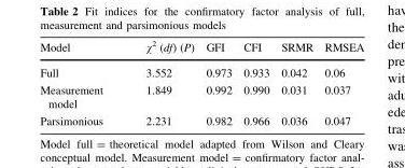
<table><thead><tr><td>Model</td><td>χ<sup>2</sup> (df) (P)</td><td>GFI</td><td>CFI</td><td>SRMR</td><td>RMSEA</td></tr></thead><tbody><tr><td>Full</td><td>3.552</td><td>0.973</td><td>0.933</td><td>0.042</td><td>0.06</td></tr><tr><td>Measurement model</td><td>1.849</td><td>0.992</td><td>0.990</td><td>0.031</td><td>0.037</td></tr><tr><td>Parsimonious</td><td>2.231</td><td>0.982</td><td>0.966</td><td>0.036</td><td>0.047</td></tr></tbody></table>